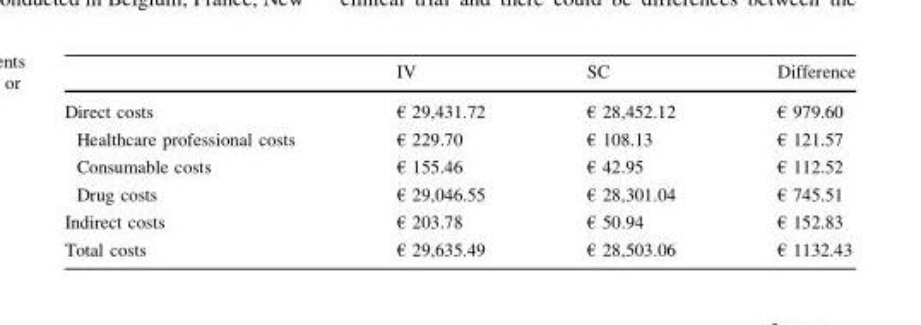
<table><thead><tr><td></td><td>IV</td><td>SC</td><td>Difference</td></tr></thead><tbody><tr><td>Direct costs</td><td>€ 29,431.72</td><td>€ 28,452.12</td><td>€ 979.60</td></tr><tr><td>Healthcare professional costs</td><td>€ 229.70</td><td>€ 108.13</td><td>€ 121.57</td></tr><tr><td>Consumable costs</td><td>€ 155.46</td><td>€ 42.95</td><td>€ 112.52</td></tr><tr><td>Drug costs</td><td>€ 29,046.55</td><td>€ 28,301.04</td><td>€ 745.51</td></tr><tr><td>Indirect costs</td><td>€ 203.78</td><td>€ 50.94</td><td>€ 152.83</td></tr><tr><td>Total costs</td><td>€ 29,635.49</td><td>€ 28,503.06</td><td>€ 1132.43</td></tr></tbody></table>